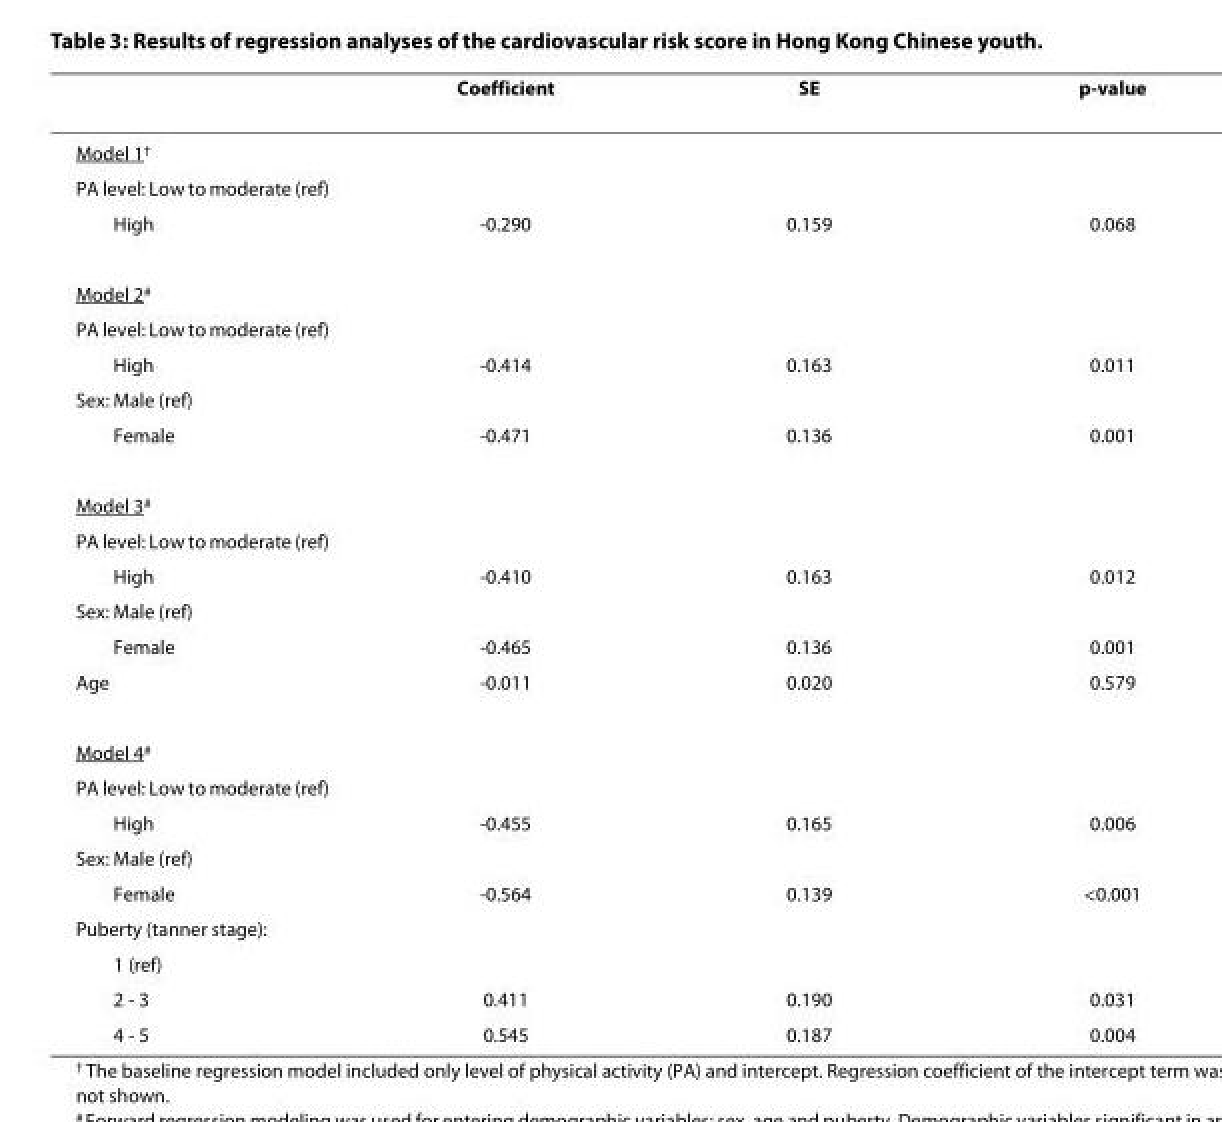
<table><thead><tr><td></td><td>Coefficient</td><td>SE</td><td>p-value</td></tr></thead><tbody><tr><td colspan="4">Model 1<sup>†</sup></td></tr><tr><td colspan="4">PA level: Low to moderate (ref)</td></tr><tr><td>High</td><td>-0.290</td><td>0.159</td><td>0.068</td></tr><tr><td colspan="4">Model 2<sup>#</sup></td></tr><tr><td colspan="4">PA level: Low to moderate (ref)</td></tr><tr><td>High</td><td>-0.414</td><td>0.163</td><td>0.011</td></tr><tr><td colspan="4">Sex: Male (ref)</td></tr><tr><td>Female</td><td>-0.471</td><td>0.136</td><td>0.001</td></tr><tr><td colspan="4">Model 3<sup>#</sup></td></tr><tr><td colspan="4">PA level: Low to moderate (ref)</td></tr><tr><td>High</td><td>-0.410</td><td>0.163</td><td>0.012</td></tr><tr><td colspan="4">Sex: Male (ref)</td></tr><tr><td>Female</td><td>-0.465</td><td>0.136</td><td>0.001</td></tr><tr><td>Age</td><td>-0.011</td><td>0.020</td><td>0.579</td></tr><tr><td colspan="4">Model 4<sup>#</sup></td></tr><tr><td colspan="4">PA level: Low to moderate (ref)</td></tr><tr><td>High</td><td>-0.455</td><td>0.165</td><td>0.006</td></tr><tr><td colspan="4">Sex: Male (ref)</td></tr><tr><td>Female</td><td>-0.564</td><td>0.139</td><td>&lt;0.001</td></tr><tr><td colspan="4">Puberty (tanner stage):</td></tr><tr><td colspan="4">1 (ref)</td></tr><tr><td>2 - 3</td><td>0.411</td><td>0.190</td><td>0.031</td></tr><tr><td>4 - 5</td><td>0.545</td><td>0.187</td><td>0.004</td></tr></tbody></table>